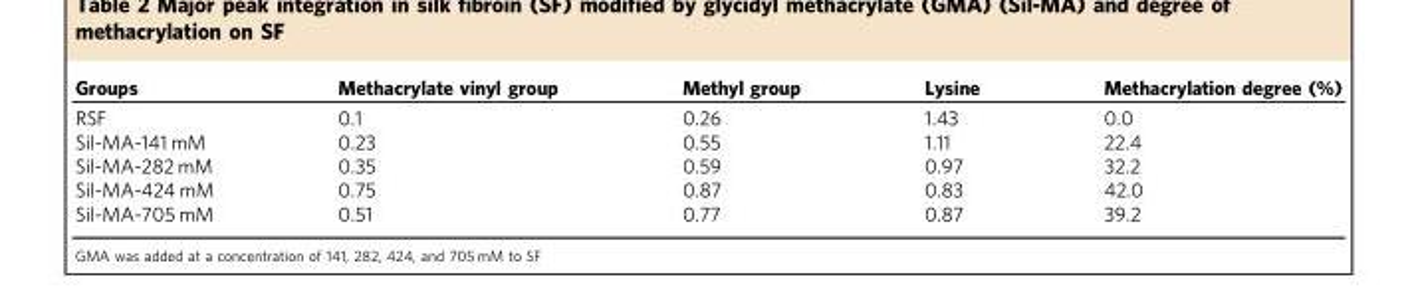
<table><thead><tr><td>Groups</td><td>Methacrylate vinyl group</td><td>Methyl group</td><td>Lysine</td><td>Methacrylation degree (%)</td></tr></thead><tbody><tr><td>RSF</td><td>0.1</td><td>0.26</td><td>1.43</td><td>0.0</td></tr><tr><td>Sil-MA-141 mM</td><td>0.23</td><td>0.55</td><td>1.11</td><td>22.4</td></tr><tr><td>Sil-MA-282 mM</td><td>0.35</td><td>0.59</td><td>0.97</td><td>32.2</td></tr><tr><td>Sil-MA-424 mM</td><td>0.75</td><td>0.87</td><td>0.83</td><td>42.0</td></tr><tr><td>Sil-MA-705 mM</td><td>0.51</td><td>0.77</td><td>0.87</td><td>39.2</td></tr></tbody></table>